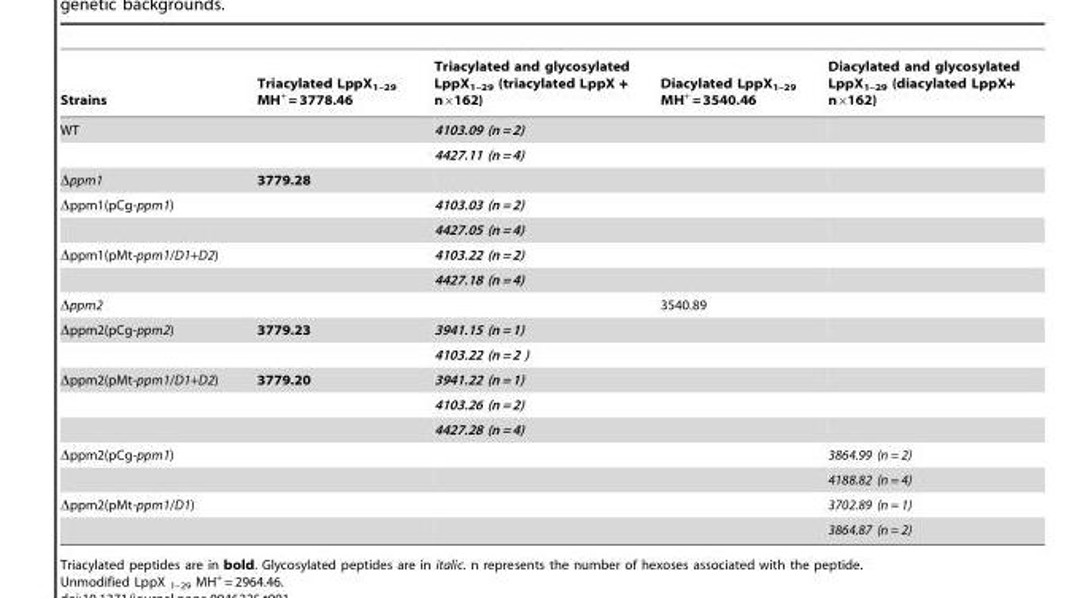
<table><thead><tr><td>Strains</td><td>Triacylated LppX<sub>1–29</sub> MH<sup>+</sup> = 3778.46</td><td>Triacylated and glycosylated LppX<sub>1–29</sub> (triacylated LppX + n×162)</td><td>Diacylated LppX<sub>1–29</sub> MH<sup>+</sup> = 3540.46</td><td>Diacylated and glycosylated LppX<sub>1–29</sub> (diacylated LppX+ n×162)</td></tr></thead><tbody><tr><td rowspan="2">WT</td><td></td><td>4103.09 (n = 2)</td><td></td><td></td></tr><tr><td></td><td>4427.11 (n = 4)</td><td></td><td></td></tr><tr><td>Δppm1</td><td>3779.28</td><td></td><td></td><td></td></tr><tr><td rowspan="2">Δppm1(pCg-ppm1)</td><td></td><td>4103.03 (n = 2)</td><td></td><td></td></tr><tr><td></td><td>4427.05 (n = 4)</td><td></td><td></td></tr><tr><td rowspan="2">Δppm1(pMt-ppm1/D1+D2)</td><td></td><td>4103.22 (n = 2)</td><td></td><td></td></tr><tr><td></td><td>4427.18 (n = 4)</td><td></td><td></td></tr><tr><td>Δppm2</td><td></td><td></td><td>3540.89</td><td></td></tr><tr><td rowspan="2">Δppm2(pCg-ppm2)</td><td>3779.23</td><td>3941.15 (n = 1)</td><td></td><td></td></tr><tr><td></td><td>4103.22 (n = 2 )</td><td></td><td></td></tr><tr><td rowspan="3">Δppm2(pMt-ppm1/D1+D2)</td><td>3779.20</td><td>3941.22 (n = 1)</td><td></td><td></td></tr><tr><td></td><td>4103.26 (n = 2)</td><td></td><td></td></tr><tr><td></td><td>4427.28 (n = 4)</td><td></td><td></td></tr><tr><td rowspan="2">Δppm2(pCg-ppm1)</td><td></td><td></td><td></td><td>3864.99 (n = 2)</td></tr><tr><td></td><td></td><td></td><td>4188.82 (n = 4)</td></tr><tr><td rowspan="2">Δppm2(pMt-ppm1/D1)</td><td></td><td></td><td></td><td>3702.89 (n = 1)</td></tr><tr><td></td><td></td><td></td><td>3864.87 (n = 2)</td></tr></tbody></table>